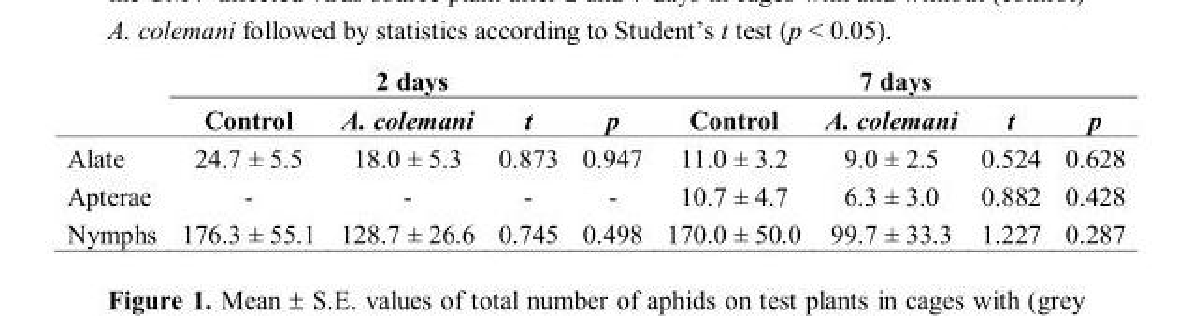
<table><thead><tr><td rowspan="2"></td><td colspan="4">2 days</td><td colspan="4">7 days</td></tr><tr><td>Control</td><td>A. colemani</td><td>t</td><td>p</td><td>Control</td><td>A. colemani</td><td>t</td><td>p</td></tr></thead><tbody><tr><td>Alate</td><td>24.7 ± 5.5</td><td>18.0 ± 5.3</td><td>0.873</td><td>0.947</td><td>11.0 ± 3.2</td><td>9.0 ± 2.5</td><td>0.524</td><td>0.628</td></tr><tr><td>Apterae</td><td>-</td><td>-</td><td>-</td><td>-</td><td>10.7 ± 4.7</td><td>6.3 ± 3.0</td><td>0.882</td><td>0.428</td></tr><tr><td>Nymphs</td><td>176.3 ± 55.1</td><td>128.7 ± 26.6</td><td>0.745</td><td>0.498</td><td>170.0 ± 50.0</td><td>99.7 ± 33.3</td><td>1.227</td><td>0.287</td></tr></tbody></table>